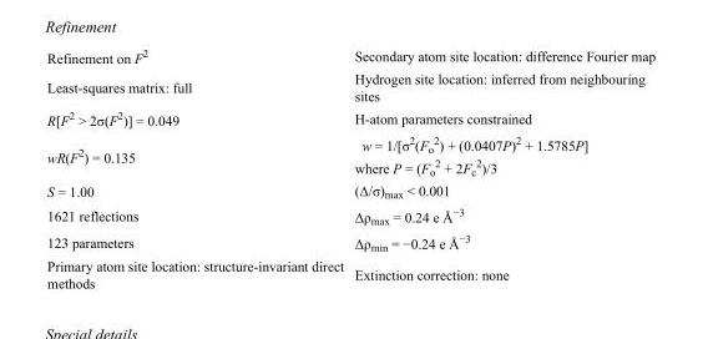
<table><tbody><tr><td>Refinement on F<sup>2</sup></td><td>Secondary atom site location: difference Fourier map</td></tr><tr><td>Least-squares matrix: full</td><td>Hydrogen site location: inferred from neighbouring sites</td></tr><tr><td>R[F<sup>2</sup> &gt; 2σ(F<sup>2</sup>)] = 0.049</td><td>H-atom parameters constrained</td></tr><tr><td>wR(F<sup>2</sup>) = 0.135</td><td>w = 1/[σ<sup>2</sup>(F<sub>o</sub> <sup>2</sup>) + (0.0407P)<sup>2</sup> + 1.5785P] where P = (F<sub>o</sub> <sup>2</sup> + 2F<sub>c</sub> <sup>2</sup>)/3</td></tr><tr><td>S = 1.00</td><td>(Δ/σ)<sub>max</sub> &lt; 0.001</td></tr><tr><td>1621 reflections</td><td>Δρ<sub>max</sub> = 0.24 e Å<sup>−3</sup></td></tr><tr><td>123 parameters</td><td>Δρ<sub>min</sub> = −0.24 e Å<sup>−3</sup></td></tr><tr><td>Primary atom site location: structure-invariant direct methods</td><td>Extinction correction: none</td></tr></tbody></table>